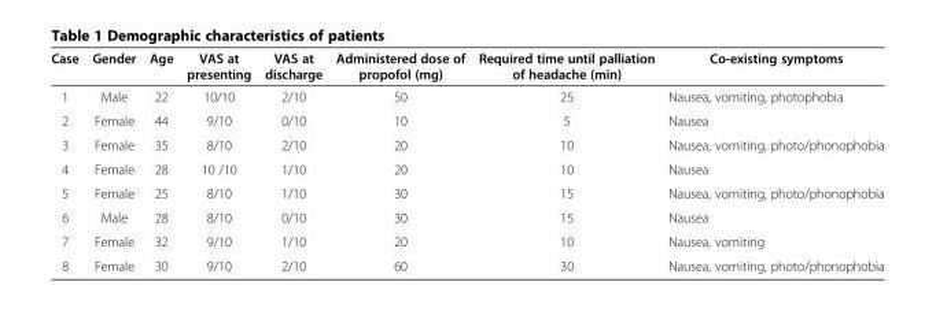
<table><thead><tr><td>Case</td><td>Gender</td><td>Age</td><td>VAS at presenting</td><td>VAS at discharge</td><td>Administered dose of propofol (mg)</td><td>Required time until palliation of headache (min)</td><td>Co-existing symptoms</td></tr></thead><tbody><tr><td>1</td><td>Male</td><td>22</td><td>10/10</td><td>2/10</td><td>50</td><td>25</td><td>Nausea, vomiting, photophobia</td></tr><tr><td>2</td><td>Female</td><td>44</td><td>9/10</td><td>0/10</td><td>10</td><td>5</td><td>Nausea</td></tr><tr><td>3</td><td>Female</td><td>35</td><td>8/10</td><td>2/10</td><td>20</td><td>10</td><td>Nausea, vomiting, photo/phonophobia</td></tr><tr><td>4</td><td>Female</td><td>28</td><td>10 /10</td><td>1/10</td><td>20</td><td>10</td><td>Nausea</td></tr><tr><td>5</td><td>Female</td><td>25</td><td>8/10</td><td>1/10</td><td>30</td><td>15</td><td>Nausea, vomiting, photo/phonophobia</td></tr><tr><td>6</td><td>Male</td><td>28</td><td>8/10</td><td>0/10</td><td>30</td><td>15</td><td>Nausea</td></tr><tr><td>7</td><td>Female</td><td>32</td><td>9/10</td><td>1/10</td><td>20</td><td>10</td><td>Nausea, vomiting</td></tr><tr><td>8</td><td>Female</td><td>30</td><td>9/10</td><td>2/10</td><td>60</td><td>30</td><td>Nausea, vomiting, photo/phonophobia</td></tr></tbody></table>